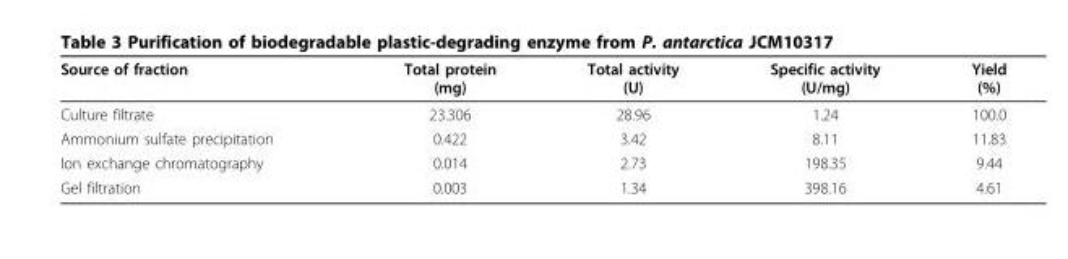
<table><thead><tr><td>Source of fraction</td><td>Total protein (mg)</td><td>Total activity (U)</td><td>Specific activity (U/mg)</td><td>Yield (%)</td></tr></thead><tbody><tr><td>Culture filtrate</td><td>23.306</td><td>28.96</td><td>1.24</td><td>100.0</td></tr><tr><td>Ammonium sulfate precipitation</td><td>0.422</td><td>3.42</td><td>8.11</td><td>11.83</td></tr><tr><td>Ion exchange chromatography</td><td>0.014</td><td>2.73</td><td>198.35</td><td>9.44</td></tr><tr><td>Gel filtration</td><td>0.003</td><td>1.34</td><td>398.16</td><td>4.61</td></tr></tbody></table>